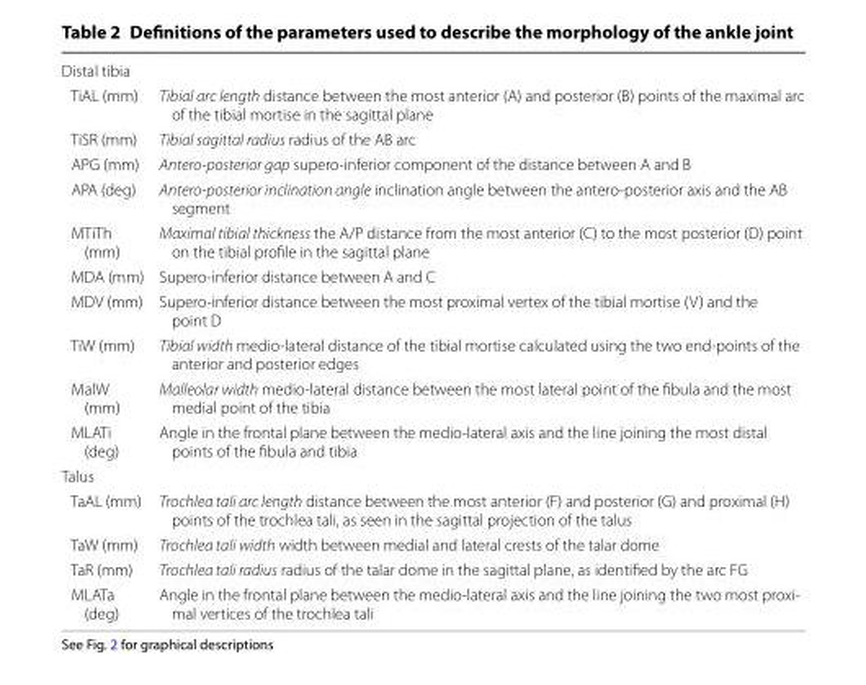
<table><tbody><tr><td colspan="2">Distal tibia</td></tr><tr><td>TiAL (mm)</td><td>Tibial arc length distance between the most anterior (A) and posterior (B) points of the maximal arc of the tibial mortise in the sagittal plane</td></tr><tr><td>TiSR (mm)</td><td>Tibial sagittal radius radius of the AB arc</td></tr><tr><td>APG (mm)</td><td>Antero‑posterior gap supero‑inferior component of the distance between A and B</td></tr><tr><td>APA (deg)</td><td>Antero‑posterior inclination angle inclination angle between the antero‑posterior axis and the AB segment</td></tr><tr><td>MTiTh (mm)</td><td>Maximal tibial thickness the A/P distance from the most anterior (C) to the most posterior (D) point on the tibial profile in the sagittal plane</td></tr><tr><td>MDA (mm)</td><td>Supero‑inferior distance between A and C</td></tr><tr><td>MDV (mm)</td><td>Supero‑inferior distance between the most proximal vertex of the tibial mortise (V) and the point D</td></tr><tr><td>TiW (mm)</td><td>Tibial width medio‑lateral distance of the tibial mortise calculated using the two end‑points of the anterior and posterior edges</td></tr><tr><td>MalW (mm)</td><td>Malleolar width medio‑lateral distance between the most lateral point of the fibula and the most medial point of the tibia</td></tr><tr><td>MLATi (deg)</td><td>Angle in the frontal plane between the medio‑lateral axis and the line joining the most distal points of the fibula and tibia</td></tr><tr><td colspan="2">Talus</td></tr><tr><td>TaAL (mm)</td><td>Trochlea tali arc length distance between the most anterior (F) and posterior (G) and proximal (H) points of the trochlea tali, as seen in the sagittal projection of the talus</td></tr><tr><td>TaW (mm)</td><td>Trochlea tali width width between medial and lateral crests of the talar dome</td></tr><tr><td>TaR (mm)</td><td>Trochlea tali radius radius of the talar dome in the sagittal plane, as identified by the arc FG</td></tr><tr><td>MLATa (deg)</td><td>Angle in the frontal plane between the medio‑lateral axis and the line joining the two most proxi‑ mal vertices of the trochlea tali</td></tr></tbody></table>